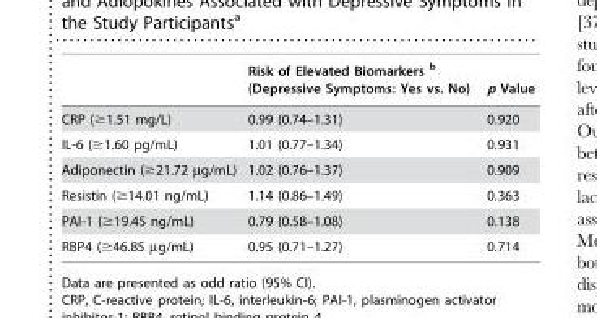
<table><thead><tr><td></td><td>Risk of Elevated Biomarkers b (Depressive Symptoms: Yes vs. No)</td><td>p Value</td></tr></thead><tbody><tr><td>CRP (≥1.51 mg/L)</td><td>0.99 (0.74–1.31)</td><td>0.920</td></tr><tr><td>IL-6 (≥1.60 pg/mL)</td><td>1.01 (0.77–1.34)</td><td>0.931</td></tr><tr><td>Adiponectin (≥21.72 µg/mL)</td><td>1.02 (0.76–1.37)</td><td>0.909</td></tr><tr><td>Resistin (≥14.01 ng/mL)</td><td>1.14 (0.86–1.49)</td><td>0.363</td></tr><tr><td>PAI-1 (≥19.45 ng/mL)</td><td>0.79 (0.58–1.08)</td><td>0.138</td></tr><tr><td>RBP4 (≥46.85 µg/mL)</td><td>0.95 (0.71–1.27)</td><td>0.714</td></tr></tbody></table>